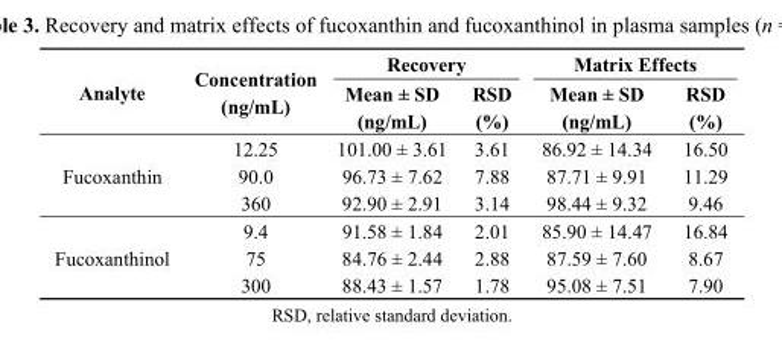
<table><thead><tr><td rowspan="2">Analyte</td><td rowspan="2">Concentration (ng/mL)</td><td colspan="2">Recovery</td><td colspan="2">Matrix Effects</td></tr><tr><td>Mean ± SD (ng/mL)</td><td>RSD (%)</td><td>Mean ± SD (ng/mL)</td><td>RSD (%)</td></tr></thead><tbody><tr><td rowspan="3">Fucoxanthin</td><td>12.25</td><td>101.00 ± 3.61</td><td>3.61</td><td>86.92 ± 14.34</td><td>16.50</td></tr><tr><td>90.0</td><td>96.73 ± 7.62</td><td>7.88</td><td>87.71 ± 9.91</td><td>11.29</td></tr><tr><td>360</td><td>92.90 ± 2.91</td><td>3.14</td><td>98.44 ± 9.32</td><td>9.46</td></tr><tr><td rowspan="3">Fucoxanthinol</td><td>9.4</td><td>91.58 ± 1.84</td><td>2.01</td><td>85.90 ± 14.47</td><td>16.84</td></tr><tr><td>75</td><td>84.76 ± 2.44</td><td>2.88</td><td>87.59 ± 7.60</td><td>8.67</td></tr><tr><td>300</td><td>88.43 ± 1.57</td><td>1.78</td><td>95.08 ± 7.51</td><td>7.90</td></tr></tbody></table>